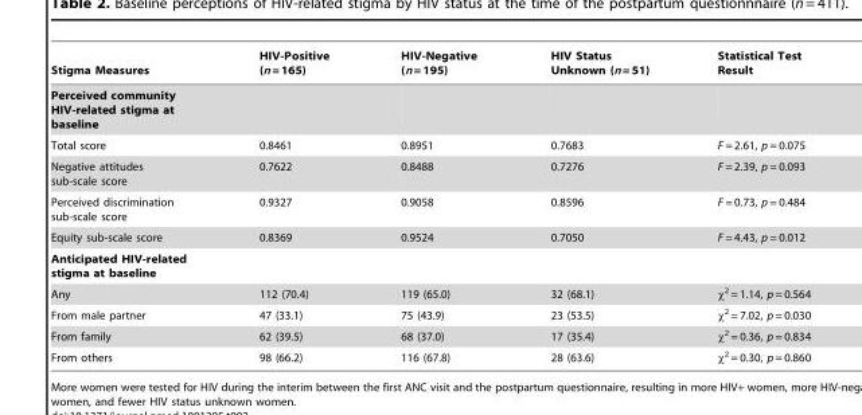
<table><thead><tr><td>Stigma Measures</td><td>HIV-Positive (n = 165)</td><td>HIV-Negative (n = 195)</td><td>HIV Status Unknown (n = 51)</td><td>Statistical Test Result</td></tr></thead><tbody><tr><td colspan="5">Perceived community HIV-related stigma at baseline</td></tr><tr><td>Total score</td><td>0.8461</td><td>0.8951</td><td>0.7683</td><td>F = 2.61, p = 0.075</td></tr><tr><td>Negative attitudes sub-scale score</td><td>0.7622</td><td>0.8488</td><td>0.7276</td><td>F = 2.39, p = 0.093</td></tr><tr><td>Perceived discrimination sub-scale score</td><td>0.9327</td><td>0.9058</td><td>0.8596</td><td>F = 0.73, p = 0.484</td></tr><tr><td>Equity sub-scale score</td><td>0.8369</td><td>0.9524</td><td>0.7050</td><td>F = 4.43, p = 0.012</td></tr><tr><td colspan="5">Anticipated HIV-related stigma at baseline</td></tr><tr><td>Any</td><td>112 (70.4)</td><td>119 (65.0)</td><td>32 (68.1)</td><td>χ<sup>2</sup> = 1.14, p = 0.564</td></tr><tr><td>From male partner</td><td>47 (33.1)</td><td>75 (43.9)</td><td>23 (53.5)</td><td>χ<sup>2</sup> = 7.02, p = 0.030</td></tr><tr><td>From family</td><td>62 (39.5)</td><td>68 (37.0)</td><td>17 (35.4)</td><td>χ<sup>2</sup> = 0.36, p = 0.834</td></tr><tr><td>From others</td><td>98 (66.2)</td><td>116 (67.8)</td><td>28 (63.6)</td><td>χ<sup>2</sup> = 0.30, p = 0.860</td></tr></tbody></table>